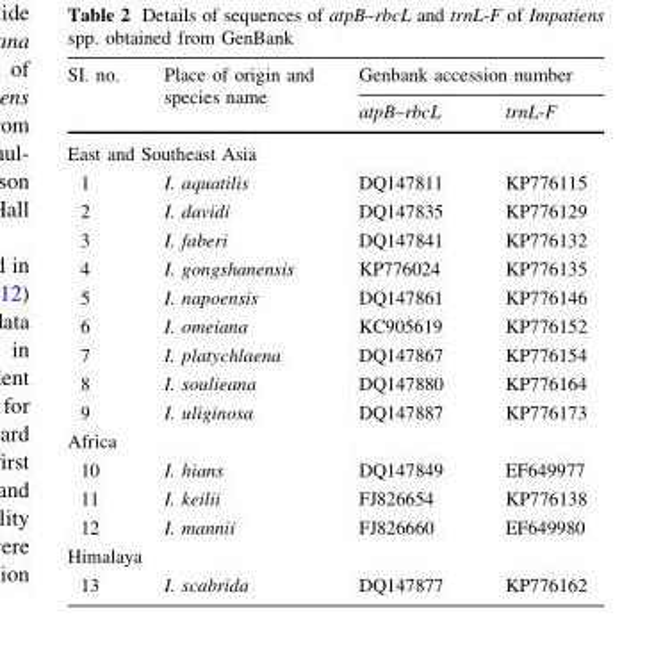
<table><thead><tr><td rowspan="2">SI. no.</td><td rowspan="2">Place of origin and species name</td><td colspan="2">Genbank accession number</td></tr><tr><td>atpB–rbcL</td><td>trnL-F</td></tr></thead><tbody><tr><td colspan="4">East and Southeast Asia</td></tr><tr><td>1</td><td>I. aquatilis</td><td>DQ147811</td><td>KP776115</td></tr><tr><td>2</td><td>I. davidi</td><td>DQ147835</td><td>KP776129</td></tr><tr><td>3</td><td>I. faberi</td><td>DQ147841</td><td>KP776132</td></tr><tr><td>4</td><td>I. gongshanensis</td><td>KP776024</td><td>KP776135</td></tr><tr><td>5</td><td>I. napoensis</td><td>DQ147861</td><td>KP776146</td></tr><tr><td>6</td><td>I. omeiana</td><td>KC905619</td><td>KP776152</td></tr><tr><td>7</td><td>I. platychlaena</td><td>DQ147867</td><td>KP776154</td></tr><tr><td>8</td><td>I. soulieana</td><td>DQ147880</td><td>KP776164</td></tr><tr><td>9</td><td>I. uliginosa</td><td>DQ147887</td><td>KP776173</td></tr><tr><td colspan="4">Africa</td></tr><tr><td>10</td><td>I. hians</td><td>DQ147849</td><td>EF649977</td></tr><tr><td>11</td><td>I. keilii</td><td>FJ826654</td><td>KP776138</td></tr><tr><td>12</td><td>I. mannii</td><td>FJ826660</td><td>EF649980</td></tr><tr><td colspan="4">Himalaya</td></tr><tr><td>13</td><td>I. scabrida</td><td>DQ147877</td><td>KP776162</td></tr></tbody></table>